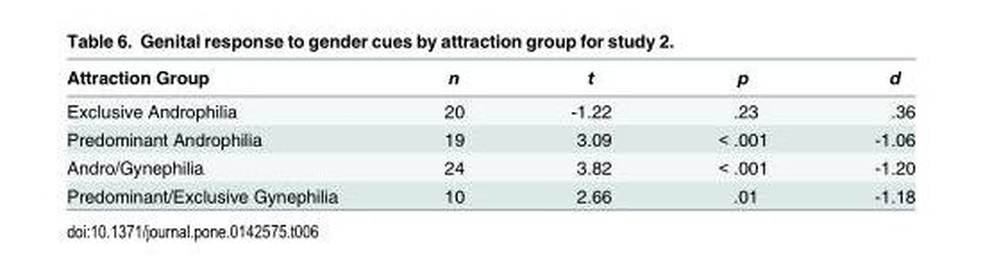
<table><thead><tr><td>Attraction Group</td><td>n</td><td>t</td><td>p</td><td>d</td></tr></thead><tbody><tr><td>Exclusive Androphilia</td><td>20</td><td>-1.22</td><td>.23</td><td>.36</td></tr><tr><td>Predominant Androphilia</td><td>19</td><td>3.09</td><td>&lt; .001</td><td>-1.06</td></tr><tr><td>Andro/Gynephilia</td><td>24</td><td>3.82</td><td>&lt; .001</td><td>-1.20</td></tr><tr><td>Predominant/Exclusive Gynephilia</td><td>10</td><td>2.66</td><td>.01</td><td>-1.18</td></tr></tbody></table>